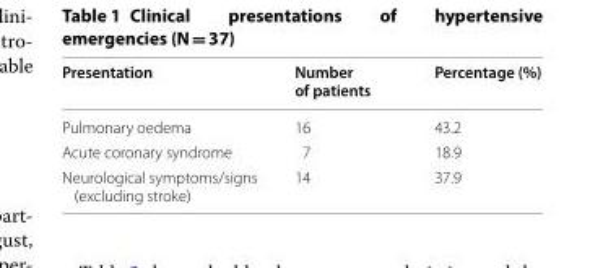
<table><thead><tr><td>Presentation</td><td>Number of patients</td><td>Percentage (%)</td></tr></thead><tbody><tr><td>Pulmonary oedema</td><td>16</td><td>43.2</td></tr><tr><td>Acute coronary syndrome</td><td>7</td><td>18.9</td></tr><tr><td>Neurological symptoms/signs (excluding stroke)</td><td>14</td><td>37.9</td></tr></tbody></table>